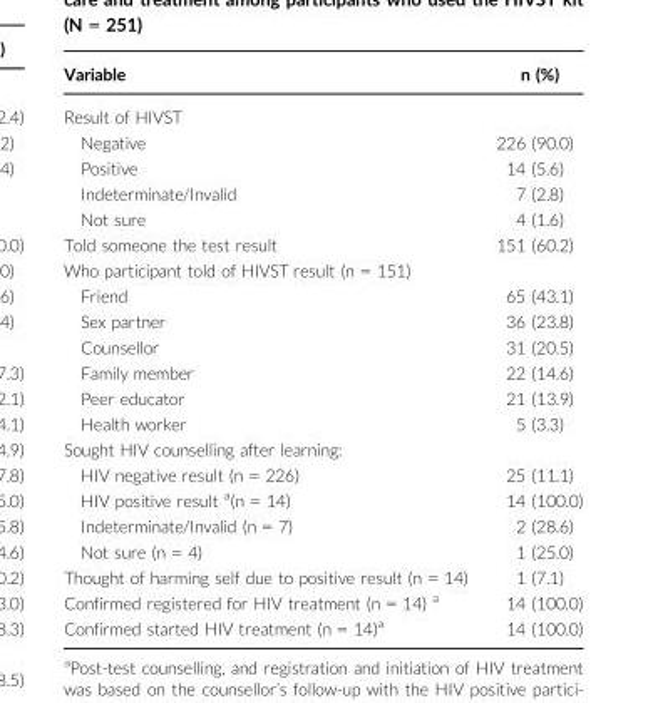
<table><thead><tr><td>Variable</td><td>n (%)</td></tr></thead><tbody><tr><td colspan="2">Result of HIVST</td></tr><tr><td>Negative</td><td>226 (90.0)</td></tr><tr><td>Positive</td><td>14 (5.6)</td></tr><tr><td>Indeterminate/Invalid</td><td>7 (2.8)</td></tr><tr><td>Not sure</td><td>4 (1.6)</td></tr><tr><td>Told someone the test result</td><td>151 (60.2)</td></tr><tr><td colspan="2">Who participant told of HIVST result (n = 151)</td></tr><tr><td>Friend</td><td>65 (43.1)</td></tr><tr><td>Sex partner</td><td>36 (23.8)</td></tr><tr><td>Counsellor</td><td>31 (20.5)</td></tr><tr><td>Family member</td><td>22 (14.6)</td></tr><tr><td>Peer educator</td><td>21 (13.9)</td></tr><tr><td>Health worker</td><td>5 (3.3)</td></tr><tr><td colspan="2">Sought HIV counselling after learning:</td></tr><tr><td>HIV negative result (n = 226)</td><td>25 (11.1)</td></tr><tr><td>HIV positive result a(n = 14)</td><td>14 (100.0)</td></tr><tr><td>Indeterminate/Invalid (n = 7)</td><td>2 (28.6)</td></tr><tr><td>Not sure (n = 4)</td><td>1 (25.0)</td></tr><tr><td>Thought of harming self due to positive result (n = 14)</td><td>1 (7.1)</td></tr><tr><td>Confirmed registered for HIV treatment (n = 14) a</td><td>14 (100.0)</td></tr><tr><td>Confirmed started HIV treatment (n = 14)<sup>a</sup></td><td>14 (100.0)</td></tr></tbody></table>